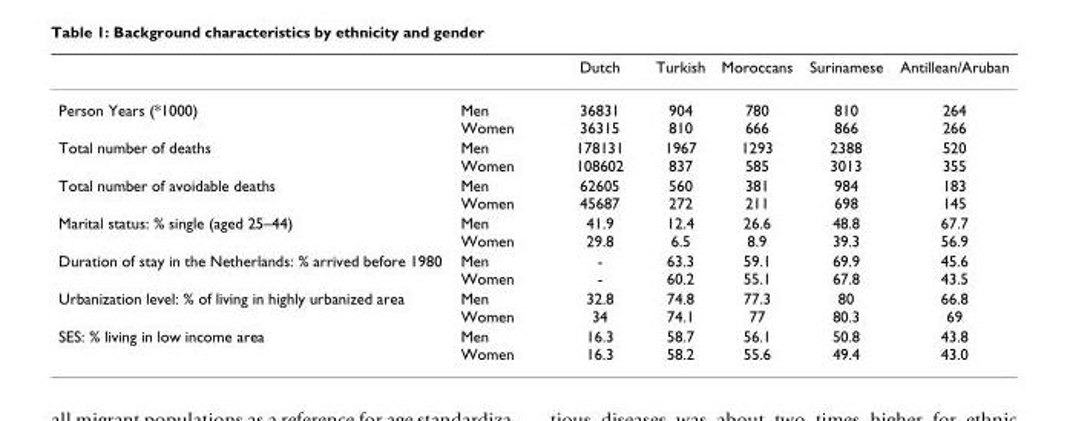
<table><thead><tr><td></td><td></td><td>Dutch</td><td>Turkish</td><td>Moroccans</td><td>Surinamese</td><td>Antillean/Aruban</td></tr></thead><tbody><tr><td>Person Years (*1000)</td><td>Men Women</td><td>36831 36315</td><td>904 810</td><td>780 666</td><td>810 866</td><td>264 266</td></tr><tr><td>Total number of deaths</td><td>Men Women</td><td>178131 108602</td><td>1967 837</td><td>1293 585</td><td>2388 3013</td><td>520 355</td></tr><tr><td>Total number of avoidable deaths</td><td>Men Women</td><td>62605 45687</td><td>560 272</td><td>381 211</td><td>984 698</td><td>183 145</td></tr><tr><td>Marital status: % single (aged 25–44)</td><td>Men Women</td><td>41.9 29.8</td><td>12.4 6.5</td><td>26.6 8.9</td><td>48.8 39.3</td><td>67.7 56.9</td></tr><tr><td>Duration of stay in the Netherlands: % arrived before 1980</td><td>Men Women</td><td>- -</td><td>63.3 60.2</td><td>59.1 55.1</td><td>69.9 67.8</td><td>45.6 43.5</td></tr><tr><td>Urbanization level: % of living in highly urbanized area</td><td>Men Women</td><td>32.8 34</td><td>74.8 74.1</td><td>77.3 77</td><td>80 80.3</td><td>66.8 69</td></tr><tr><td>SES: % living in low income area</td><td>Men Women</td><td>16.3 16.3</td><td>58.7 58.2</td><td>56.1 55.6</td><td>50.8 49.4</td><td>43.8 43.0</td></tr></tbody></table>